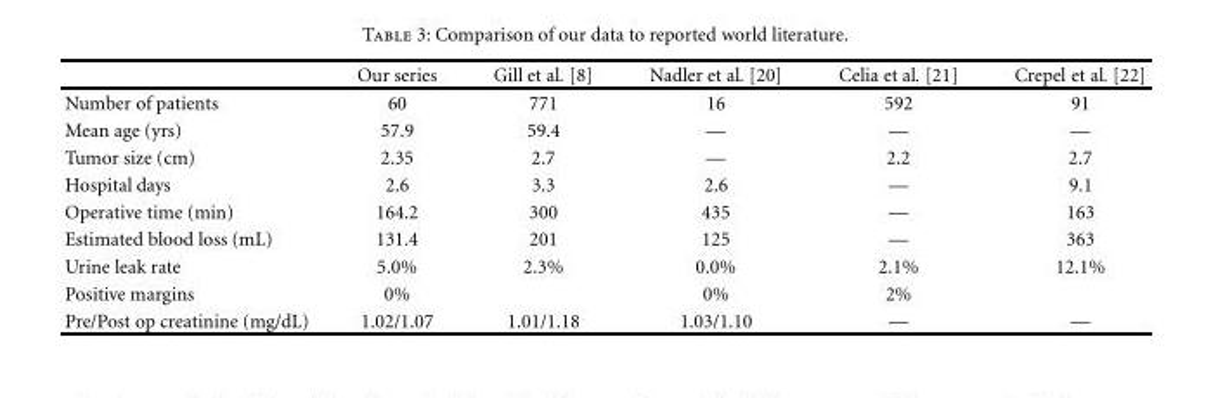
<table><thead><tr><td></td><td>Our series</td><td>Gill et al. [8]</td><td>Nadler et al. [20]</td><td>Celia et al. [21]</td><td>Crepel et al. [22]</td></tr></thead><tbody><tr><td>Number of patients</td><td>60</td><td>771</td><td>16</td><td>592</td><td>91</td></tr><tr><td>Mean age (yrs)</td><td>57.9</td><td>59.4</td><td>—</td><td>—</td><td>—</td></tr><tr><td>Tumor size (cm)</td><td>2.35</td><td>2.7</td><td>—</td><td>2.2</td><td>2.7</td></tr><tr><td>Hospital days</td><td>2.6</td><td>3.3</td><td>2.6</td><td>—</td><td>9.1</td></tr><tr><td>Operative time (min)</td><td>164.2</td><td>300</td><td>435</td><td>—</td><td>163</td></tr><tr><td>Estimated blood loss (mL)</td><td>131.4</td><td>201</td><td>125</td><td>—</td><td>363</td></tr><tr><td>Urine leak rate</td><td>5.0%</td><td>2.3%</td><td>0.0%</td><td>2.1%</td><td>12.1%</td></tr><tr><td>Positive margins</td><td>0%</td><td></td><td>0%</td><td>2%</td><td></td></tr><tr><td>Pre/Post op creatinine (mg/dL)</td><td>1.02/1.07</td><td>1.01/1.18</td><td>1.03/1.10</td><td>—</td><td>—</td></tr></tbody></table>